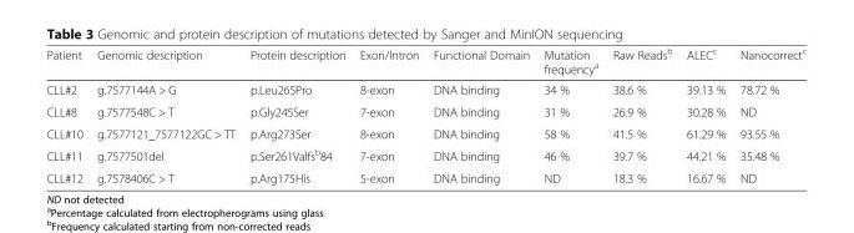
<table><thead><tr><td>Patient</td><td>Genomic description</td><td>Protein description</td><td>Exon/Intron</td><td>Functional Domain</td><td>Mutation frequency<sup>a</sup></td><td>Raw Reads<sup>b</sup></td><td>ALEC<sup>c</sup></td><td>Nanocorrect<sup>c</sup></td></tr></thead><tbody><tr><td>CLL#2</td><td>g.7577144A &gt; G</td><td>p.Leu265Pro</td><td>8-exon</td><td>DNA binding</td><td>34 %</td><td>38.6 %</td><td>39.13 %</td><td>78.72 %</td></tr><tr><td>CLL#8</td><td>g.7577548C &gt; T</td><td>p.Gly245Ser</td><td>7-exon</td><td>DNA binding</td><td>31 %</td><td>26.9 %</td><td>30.28 %</td><td>ND</td></tr><tr><td>CLL#10</td><td>g.7577121_7577122GC &gt; TT</td><td>p.Arg273Ser</td><td>8-exon</td><td>DNA binding</td><td>58 %</td><td>41.5 %</td><td>61.29 %</td><td>93.55 %</td></tr><tr><td>CLL#11</td><td>g.7577501del</td><td>p.Ser261Valfs<sup>b</sup>84</td><td>7-exon</td><td>DNA binding</td><td>46 %</td><td>39.7 %</td><td>44.21 %</td><td>35.48 %</td></tr><tr><td>CLL#12</td><td>g.7578406C &gt; T</td><td>p.Arg175His</td><td>5-exon</td><td>DNA binding</td><td>ND</td><td>18.3 %</td><td>16.67 %</td><td>ND</td></tr></tbody></table>